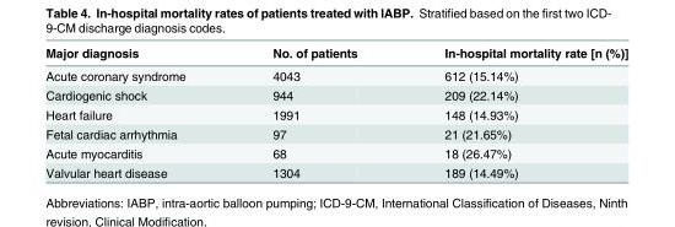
<table><thead><tr><td>Major diagnosis</td><td>No. of patients</td><td>In-hospital mortality rate [n (%)]</td></tr></thead><tbody><tr><td>Acute coronary syndrome</td><td>4043</td><td>612 (15.14%)</td></tr><tr><td>Cardiogenic shock</td><td>944</td><td>209 (22.14%)</td></tr><tr><td>Heart failure</td><td>1991</td><td>148 (14.93%)</td></tr><tr><td>Fetal cardiac arrhythmia</td><td>97</td><td>21 (21.65%)</td></tr><tr><td>Acute myocarditis</td><td>68</td><td>18 (26.47%)</td></tr><tr><td>Valvular heart disease</td><td>1304</td><td>189 (14.49%)</td></tr></tbody></table>